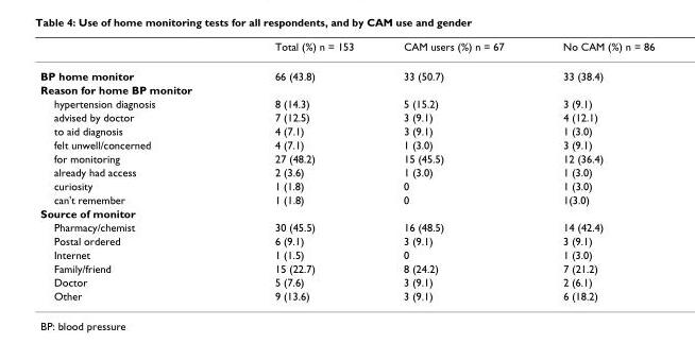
<table><thead><tr><td></td><td>Total (%) n = 153</td><td>CAM users (%) n = 67</td><td>No CAM (%) n = 86</td></tr></thead><tbody><tr><td>BP home monitor</td><td>66 (43.8)</td><td>33 (50.7)</td><td>33 (38.4)</td></tr><tr><td colspan="4">Reason for home BP monitor</td></tr><tr><td>hypertension diagnosis</td><td>8 (14.3)</td><td>5 (15.2)</td><td>3 (9.1)</td></tr><tr><td>advised by doctor</td><td>7 (12.5)</td><td>3 (9.1)</td><td>4 (12.1)</td></tr><tr><td>to aid diagnosis</td><td>4 (7.1)</td><td>3 (9.1)</td><td>1 (3.0)</td></tr><tr><td>felt unwell/concerned</td><td>4 (7.1)</td><td>1 (3.0)</td><td>3 (9.1)</td></tr><tr><td>for monitoring</td><td>27 (48.2)</td><td>15 (45.5)</td><td>12 (36.4)</td></tr><tr><td>already had access</td><td>2 (3.6)</td><td>1 (3.0)</td><td>1 (3.0)</td></tr><tr><td>curiosity</td><td>1 (1.8)</td><td>0</td><td>1 (3.0)</td></tr><tr><td>can&#x27;t remember</td><td>1 (1.8)</td><td>0</td><td>1(3.0)</td></tr><tr><td colspan="4">Source of monitor</td></tr><tr><td>Pharmacy/chemist</td><td>30 (45.5)</td><td>16 (48.5)</td><td>14 (42.4)</td></tr><tr><td>Postal ordered</td><td>6 (9.1)</td><td>3 (9.1)</td><td>3 (9.1)</td></tr><tr><td>Internet</td><td>1 (1.5)</td><td>0</td><td>1 (3.0)</td></tr><tr><td>Family/friend</td><td>15 (22.7)</td><td>8 (24.2)</td><td>7 (21.2)</td></tr><tr><td>Doctor</td><td>5 (7.6)</td><td>3 (9.1)</td><td>2 (6.1)</td></tr><tr><td>Other</td><td>9 (13.6)</td><td>3 (9.1)</td><td>6 (18.2)</td></tr></tbody></table>